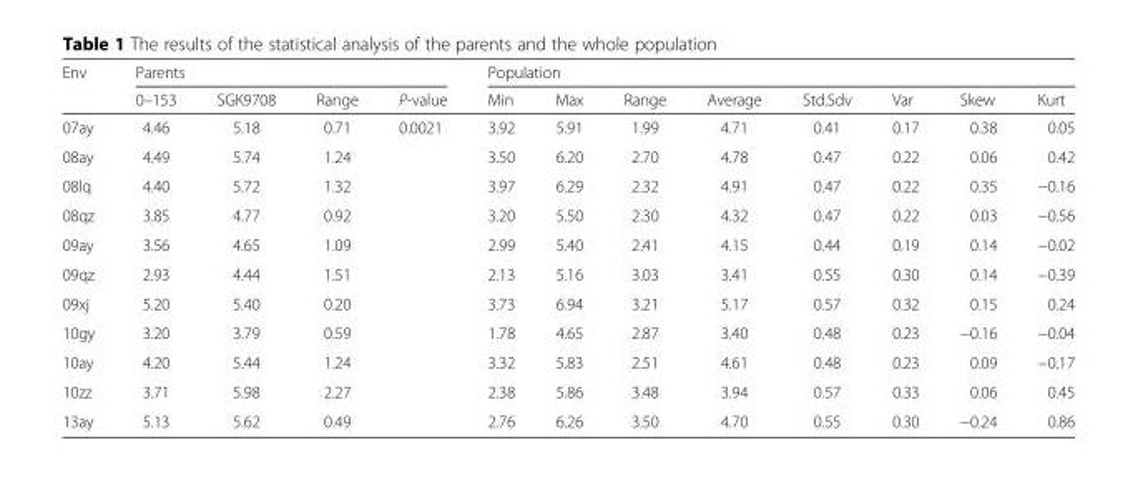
<table><thead><tr><td rowspan="2">Env</td><td colspan="4">Parents</td><td colspan="8">Population</td></tr><tr><td>0–153</td><td>SGK9708</td><td>Range</td><td>P-value</td><td>Min</td><td>Max</td><td>Range</td><td>Average</td><td>Std.Sdv</td><td>Var</td><td>Skew</td><td>Kurt</td></tr></thead><tbody><tr><td>07ay</td><td>4.46</td><td>5.18</td><td>0.71</td><td>0.0021</td><td>3.92</td><td>5.91</td><td>1.99</td><td>4.71</td><td>0.41</td><td>0.17</td><td>0.38</td><td>0.05</td></tr><tr><td>08ay</td><td>4.49</td><td>5.74</td><td>1.24</td><td></td><td>3.50</td><td>6.20</td><td>2.70</td><td>4.78</td><td>0.47</td><td>0.22</td><td>0.06</td><td>0.42</td></tr><tr><td>08lq</td><td>4.40</td><td>5.72</td><td>1.32</td><td></td><td>3.97</td><td>6.29</td><td>2.32</td><td>4.91</td><td>0.47</td><td>0.22</td><td>0.35</td><td>−0.16</td></tr><tr><td>08qz</td><td>3.85</td><td>4.77</td><td>0.92</td><td></td><td>3.20</td><td>5.50</td><td>2.30</td><td>4.32</td><td>0.47</td><td>0.22</td><td>0.03</td><td>−0.56</td></tr><tr><td>09ay</td><td>3.56</td><td>4.65</td><td>1.09</td><td></td><td>2.99</td><td>5.40</td><td>2.41</td><td>4.15</td><td>0.44</td><td>0.19</td><td>0.14</td><td>−0.02</td></tr><tr><td>09qz</td><td>2.93</td><td>4.44</td><td>1.51</td><td></td><td>2.13</td><td>5.16</td><td>3.03</td><td>3.41</td><td>0.55</td><td>0.30</td><td>0.14</td><td>−0.39</td></tr><tr><td>09xj</td><td>5.20</td><td>5.40</td><td>0.20</td><td></td><td>3.73</td><td>6.94</td><td>3.21</td><td>5.17</td><td>0.57</td><td>0.32</td><td>0.15</td><td>0.24</td></tr><tr><td>10gy</td><td>3.20</td><td>3.79</td><td>0.59</td><td></td><td>1.78</td><td>4.65</td><td>2.87</td><td>3.40</td><td>0.48</td><td>0.23</td><td>−0.16</td><td>−0.04</td></tr><tr><td>10ay</td><td>4.20</td><td>5.44</td><td>1.24</td><td></td><td>3.32</td><td>5.83</td><td>2.51</td><td>4.61</td><td>0.48</td><td>0.23</td><td>0.09</td><td>−0.17</td></tr><tr><td>10zz</td><td>3.71</td><td>5.98</td><td>2.27</td><td></td><td>2.38</td><td>5.86</td><td>3.48</td><td>3.94</td><td>0.57</td><td>0.33</td><td>0.06</td><td>0.45</td></tr><tr><td>13ay</td><td>5.13</td><td>5.62</td><td>0.49</td><td></td><td>2.76</td><td>6.26</td><td>3.50</td><td>4.70</td><td>0.55</td><td>0.30</td><td>−0.24</td><td>0.86</td></tr></tbody></table>